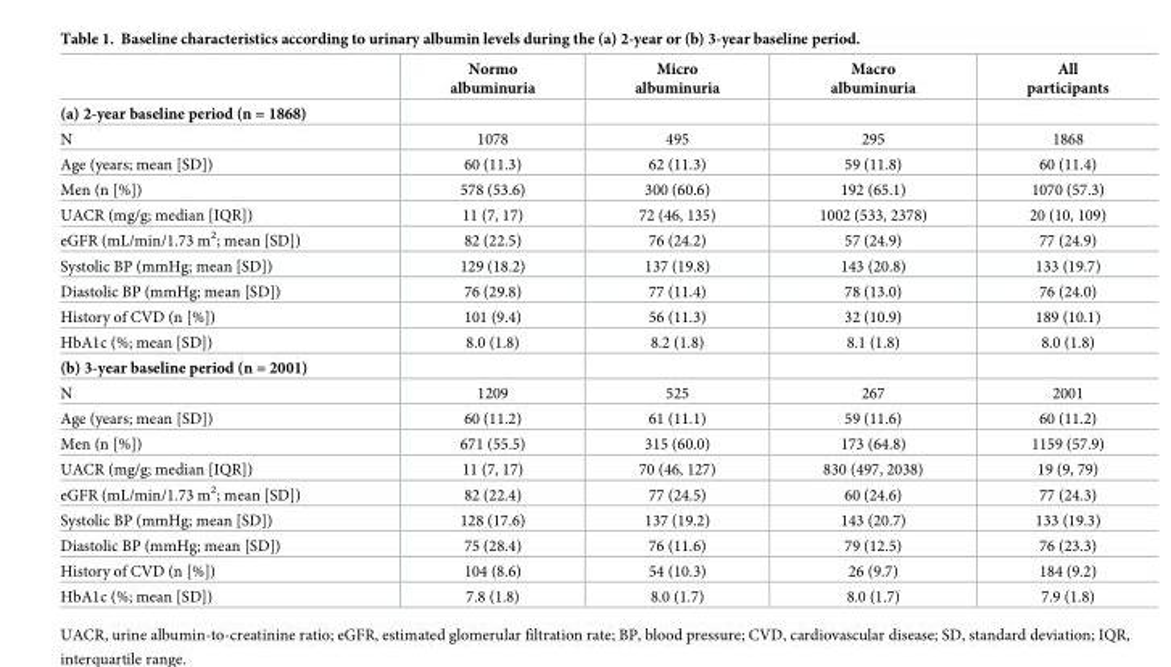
<table><thead><tr><td></td><td>Normo albuminuria</td><td>Micro albuminuria</td><td>Macro albuminuria</td><td>All participants</td></tr></thead><tbody><tr><td colspan="5">(a) 2-year baseline period (n = 1868)</td></tr><tr><td>N</td><td>1078</td><td>495</td><td>295</td><td>1868</td></tr><tr><td>Age (years; mean [SD])</td><td>60 (11.3)</td><td>62 (11.3)</td><td>59 (11.8)</td><td>60 (11.4)</td></tr><tr><td>Men (n [%])</td><td>578 (53.6)</td><td>300 (60.6)</td><td>192 (65.1)</td><td>1070 (57.3)</td></tr><tr><td>UACR (mg/g; median [IQR])</td><td>11 (7, 17)</td><td>72 (46, 135)</td><td>1002 (533, 2378)</td><td>20 (10, 109)</td></tr><tr><td>eGFR (mL/min/1.73 m<sup>2</sup>; mean [SD])</td><td>82 (22.5)</td><td>76 (24.2)</td><td>57 (24.9)</td><td>77 (24.9)</td></tr><tr><td>Systolic BP (mmHg; mean [SD])</td><td>129 (18.2)</td><td>137 (19.8)</td><td>143 (20.8)</td><td>133 (19.7)</td></tr><tr><td>Diastolic BP (mmHg; mean [SD])</td><td>76 (29.8)</td><td>77 (11.4)</td><td>78 (13.0)</td><td>76 (24.0)</td></tr><tr><td>History of CVD (n [%])</td><td>101 (9.4)</td><td>56 (11.3)</td><td>32 (10.9)</td><td>189 (10.1)</td></tr><tr><td>HbA1c (%; mean [SD])</td><td>8.0 (1.8)</td><td>8.2 (1.8)</td><td>8.1 (1.8)</td><td>8.0 (1.8)</td></tr><tr><td colspan="5">(b) 3-year baseline period (n = 2001)</td></tr><tr><td>N</td><td>1209</td><td>525</td><td>267</td><td>2001</td></tr><tr><td>Age (years; mean [SD])</td><td>60 (11.2)</td><td>61 (11.1)</td><td>59 (11.6)</td><td>60 (11.2)</td></tr><tr><td>Men (n [%])</td><td>671 (55.5)</td><td>315 (60.0)</td><td>173 (64.8)</td><td>1159 (57.9)</td></tr><tr><td>UACR (mg/g; median [IQR])</td><td>11 (7, 17)</td><td>70 (46, 127)</td><td>830 (497, 2038)</td><td>19 (9, 79)</td></tr><tr><td>eGFR (mL/min/1.73 m<sup>2</sup>; mean [SD])</td><td>82 (22.4)</td><td>77 (24.5)</td><td>60 (24.6)</td><td>77 (24.3)</td></tr><tr><td>Systolic BP (mmHg; mean [SD])</td><td>128 (17.6)</td><td>137 (19.2)</td><td>143 (20.7)</td><td>133 (19.3)</td></tr><tr><td>Diastolic BP (mmHg; mean [SD])</td><td>75 (28.4)</td><td>76 (11.6)</td><td>79 (12.5)</td><td>76 (23.3)</td></tr><tr><td>History of CVD (n [%])</td><td>104 (8.6)</td><td>54 (10.3)</td><td>26 (9.7)</td><td>184 (9.2)</td></tr><tr><td>HbA1c (%; mean [SD])</td><td>7.8 (1.8)</td><td>8.0 (1.7)</td><td>8.0 (1.7)</td><td>7.9 (1.8)</td></tr></tbody></table>